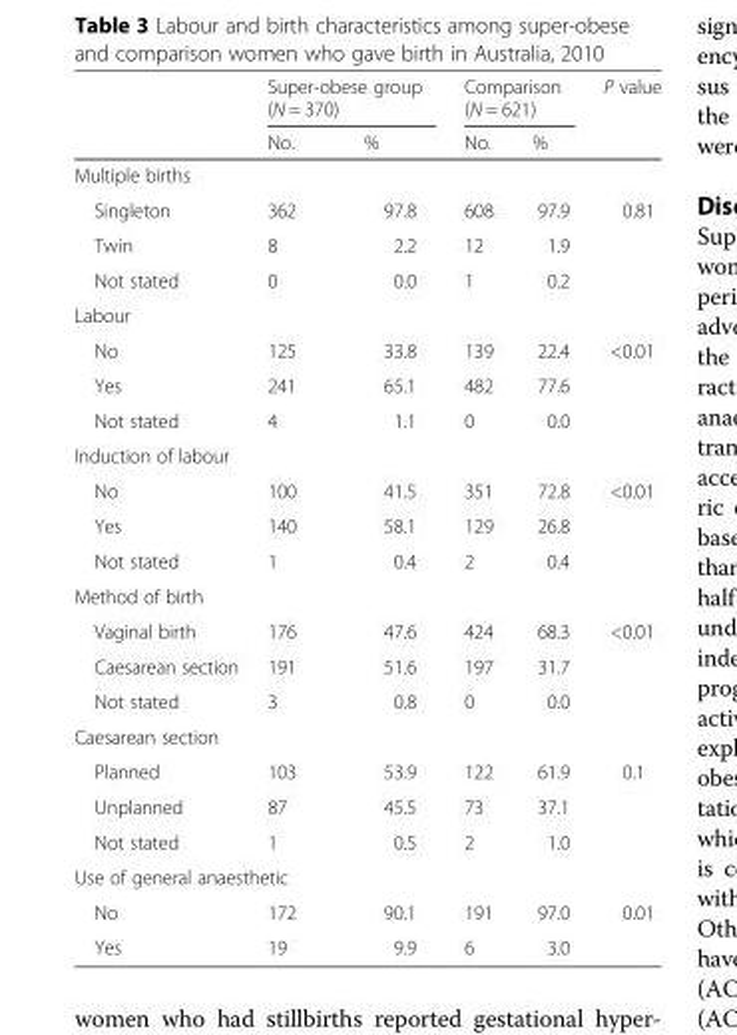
<table><thead><tr><td rowspan="2"></td><td colspan="2">Super-obese group (N = 370)</td><td colspan="2">Comparison (N = 621)</td><td rowspan="2">P value</td></tr><tr><td>No.</td><td>%</td><td>No.</td><td>%</td></tr></thead><tbody><tr><td colspan="6">Multiple births</td></tr><tr><td>Singleton</td><td>362</td><td>97.8</td><td>608</td><td>97.9</td><td rowspan="2">0.81</td></tr><tr><td>Twin</td><td>8</td><td>2.2</td><td>12</td><td>1.9</td></tr><tr><td>Not stated</td><td>0</td><td>0.0</td><td>1</td><td>0.2</td><td></td></tr><tr><td colspan="6">Labour</td></tr><tr><td>No</td><td>125</td><td>33.8</td><td>139</td><td>22.4</td><td rowspan="2">&lt;0.01</td></tr><tr><td>Yes</td><td>241</td><td>65.1</td><td>482</td><td>77.6</td></tr><tr><td>Not stated</td><td>4</td><td>1.1</td><td>0</td><td>0.0</td><td></td></tr><tr><td colspan="6">Induction of labour</td></tr><tr><td>No</td><td>100</td><td>41.5</td><td>351</td><td>72.8</td><td rowspan="2">&lt;0.01</td></tr><tr><td>Yes</td><td>140</td><td>58.1</td><td>129</td><td>26.8</td></tr><tr><td>Not stated</td><td>1</td><td>0.4</td><td>2</td><td>0.4</td><td></td></tr><tr><td colspan="6">Method of birth</td></tr><tr><td>Vaginal birth</td><td>176</td><td>47.6</td><td>424</td><td>68.3</td><td rowspan="2">&lt;0.01</td></tr><tr><td>Caesarean section</td><td>191</td><td>51.6</td><td>197</td><td>31.7</td></tr><tr><td>Not stated</td><td>3</td><td>0.8</td><td>0</td><td>0.0</td><td></td></tr><tr><td colspan="6">Caesarean section</td></tr><tr><td>Planned</td><td>103</td><td>53.9</td><td>122</td><td>61.9</td><td rowspan="2">0.1</td></tr><tr><td>Unplanned</td><td>87</td><td>45.5</td><td>73</td><td>37.1</td></tr><tr><td>Not stated</td><td>1</td><td>0.5</td><td>2</td><td>1.0</td><td></td></tr><tr><td colspan="6">Use of general anaesthetic</td></tr><tr><td>No</td><td>172</td><td>90.1</td><td>191</td><td>97.0</td><td rowspan="2">0.01</td></tr><tr><td>Yes</td><td>19</td><td>9.9</td><td>6</td><td>3.0</td></tr></tbody></table>